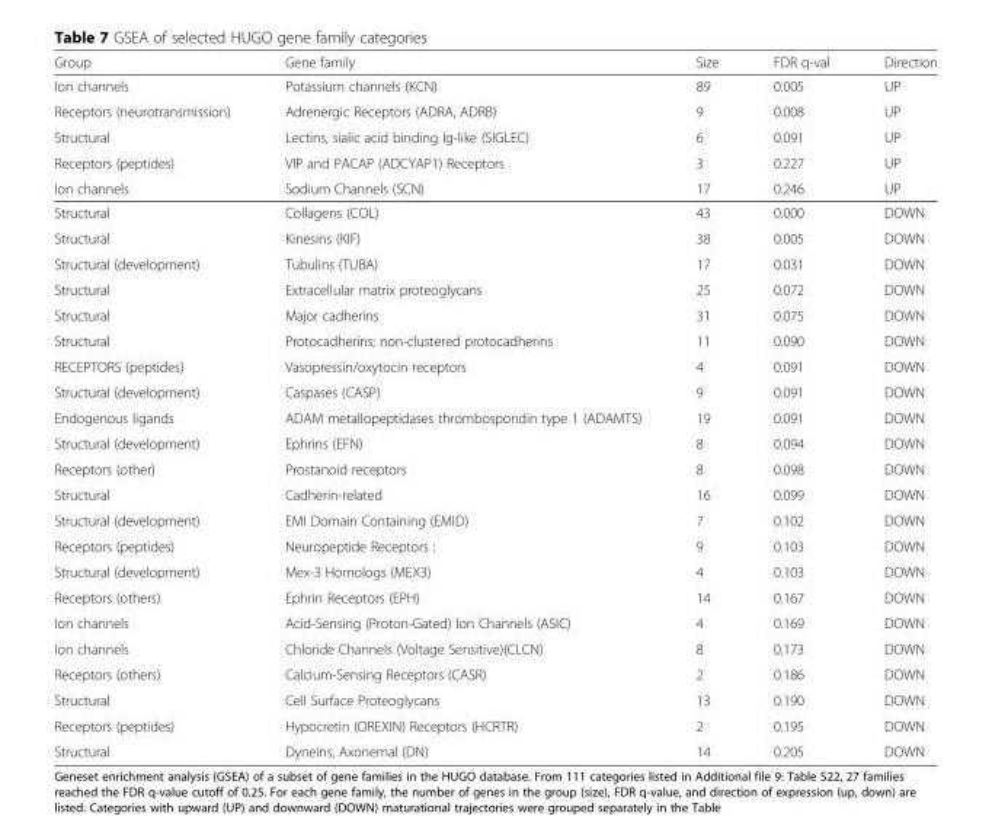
<table><thead><tr><td>Group</td><td>Gene family</td><td>Size</td><td>FDR q-val</td><td>Direction</td></tr></thead><tbody><tr><td>Ion channels</td><td>Potassium channels (KCN)</td><td>89</td><td>0.005</td><td>UP</td></tr><tr><td>Receptors (neurotransmission)</td><td>Adrenergic Receptors (ADRA, ADRB)</td><td>9</td><td>0.008</td><td>UP</td></tr><tr><td>Structural</td><td>Lectins, sialic acid binding Ig-like (SIGLEC)</td><td>6</td><td>0.091</td><td>UP</td></tr><tr><td>Receptors (peptides)</td><td>VIP and PACAP (ADCYAP1) Receptors</td><td>3</td><td>0.227</td><td>UP</td></tr><tr><td>Ion channels</td><td>Sodium Channels (SCN)</td><td>17</td><td>0.246</td><td>UP</td></tr><tr><td>Structural</td><td>Collagens (COL)</td><td>43</td><td>0.000</td><td>DOWN</td></tr><tr><td>Structural</td><td>Kinesins (KIF)</td><td>38</td><td>0.005</td><td>DOWN</td></tr><tr><td>Structural (development)</td><td>Tubulins (TUBA)</td><td>17</td><td>0.031</td><td>DOWN</td></tr><tr><td>Structural</td><td>Extracellular matrix proteoglycans</td><td>25</td><td>0.072</td><td>DOWN</td></tr><tr><td>Structural</td><td>Major cadherins</td><td>31</td><td>0.075</td><td>DOWN</td></tr><tr><td>Structural</td><td>Protocadherins; non-clustered protocadherins</td><td>11</td><td>0.090</td><td>DOWN</td></tr><tr><td>RECEPTORS (peptides)</td><td>Vasopressin/oxytocin receptors</td><td>4</td><td>0.091</td><td>DOWN</td></tr><tr><td>Structural (development)</td><td>Caspases (CASP)</td><td>9</td><td>0.091</td><td>DOWN</td></tr><tr><td>Endogenous ligands</td><td>ADAM metallopeptidases thrombospondin type 1 (ADAMTS)</td><td>19</td><td>0.091</td><td>DOWN</td></tr><tr><td>Structural (development)</td><td>Ephrins (EFN)</td><td>8</td><td>0.094</td><td>DOWN</td></tr><tr><td>Receptors (other)</td><td>Prostanoid receptors</td><td>8</td><td>0.098</td><td>DOWN</td></tr><tr><td>Structural</td><td>Cadherin-related</td><td>16</td><td>0.099</td><td>DOWN</td></tr><tr><td>Structural (development)</td><td>EMI Domain Containing (EMID)</td><td>7</td><td>0.102</td><td>DOWN</td></tr><tr><td>Receptors (peptides)</td><td>Neuropeptide Receptors :</td><td>9</td><td>0.103</td><td>DOWN</td></tr><tr><td>Structural (development)</td><td>Mex-3 Homologs (MEX3)</td><td>4</td><td>0.103</td><td>DOWN</td></tr><tr><td>Receptors (others)</td><td>Ephrin Receptors (EPH)</td><td>14</td><td>0.167</td><td>DOWN</td></tr><tr><td>Ion channels</td><td>Acid-Sensing (Proton-Gated) Ion Channels (ASIC)</td><td>4</td><td>0.169</td><td>DOWN</td></tr><tr><td>Ion channels</td><td>Chloride Channels (Voltage Sensitive)(CLCN)</td><td>8</td><td>0.173</td><td>DOWN</td></tr><tr><td>Receptors (others)</td><td>Calcium-Sensing Receptors (CASR)</td><td>2</td><td>0.186</td><td>DOWN</td></tr><tr><td>Structural</td><td>Cell Surface Proteoglycans</td><td>13</td><td>0.190</td><td>DOWN</td></tr><tr><td>Receptors (peptides)</td><td>Hypocretin (OREXIN) Receptors (HCRTR)</td><td>2</td><td>0.195</td><td>DOWN</td></tr><tr><td>Structural</td><td>Dyneins, Axonemal (DN)</td><td>14</td><td>0.205</td><td>DOWN</td></tr></tbody></table>